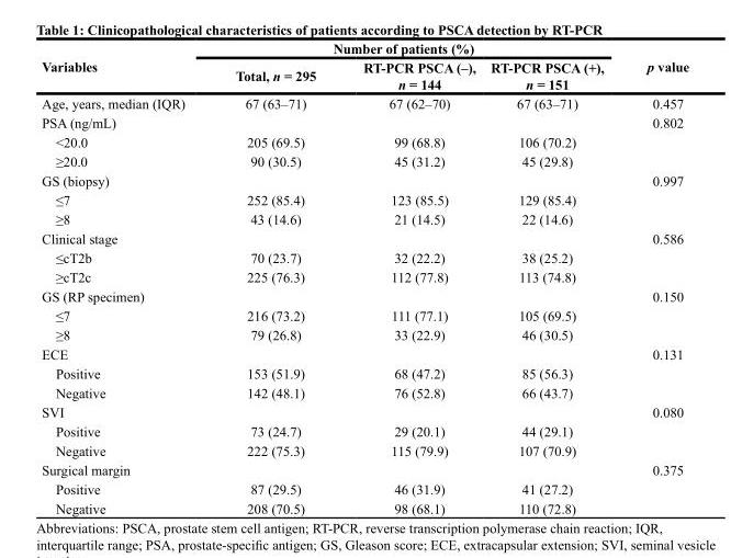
<table><thead><tr><td rowspan="2">Variables</td><td colspan="3">Number of patients (%)</td><td rowspan="2">p value</td></tr><tr><td>Total, n = 295</td><td>RT-PCR PSCA (–), n = 144</td><td>RT-PCR PSCA (+), n = 151</td></tr></thead><tbody><tr><td>Age, years, median (IQR)</td><td>67 (63–71)</td><td>67 (62–70)</td><td>67 (63–71)</td><td>0.457</td></tr><tr><td>PSA (ng/mL)</td><td></td><td></td><td></td><td>0.802</td></tr><tr><td>&lt;20.0</td><td>205 (69.5)</td><td>99 (68.8)</td><td>106 (70.2)</td><td></td></tr><tr><td>≥20.0</td><td>90 (30.5)</td><td>45 (31.2)</td><td>45 (29.8)</td><td></td></tr><tr><td>GS (biopsy)</td><td></td><td></td><td></td><td>0.997</td></tr><tr><td>≤7</td><td>252 (85.4)</td><td>123 (85.5)</td><td>129 (85.4)</td><td></td></tr><tr><td>≥8</td><td>43 (14.6)</td><td>21 (14.5)</td><td>22 (14.6)</td><td></td></tr><tr><td>Clinical stage</td><td></td><td></td><td></td><td>0.586</td></tr><tr><td>≤cT2b</td><td>70 (23.7)</td><td>32 (22.2)</td><td>38 (25.2)</td><td></td></tr><tr><td>≥cT2c</td><td>225 (76.3)</td><td>112 (77.8)</td><td>113 (74.8)</td><td></td></tr><tr><td>GS (RP specimen)</td><td></td><td></td><td></td><td>0.150</td></tr><tr><td>≤7</td><td>216 (73.2)</td><td>111 (77.1)</td><td>105 (69.5)</td><td></td></tr><tr><td>≥8</td><td>79 (26.8)</td><td>33 (22.9)</td><td>46 (30.5)</td><td></td></tr><tr><td>ECE</td><td></td><td></td><td></td><td>0.131</td></tr><tr><td>Positive</td><td>153 (51.9)</td><td>68 (47.2)</td><td>85 (56.3)</td><td></td></tr><tr><td>Negative</td><td>142 (48.1)</td><td>76 (52.8)</td><td>66 (43.7)</td><td></td></tr><tr><td>SVI</td><td></td><td></td><td></td><td>0.080</td></tr><tr><td>Positive</td><td>73 (24.7)</td><td>29 (20.1)</td><td>44 (29.1)</td><td></td></tr><tr><td>Negative</td><td>222 (75.3)</td><td>115 (79.9)</td><td>107 (70.9)</td><td></td></tr><tr><td>Surgical margin</td><td></td><td></td><td></td><td>0.375</td></tr><tr><td>Positive</td><td>87 (29.5)</td><td>46 (31.9)</td><td>41 (27.2)</td><td></td></tr><tr><td>Negative</td><td>208 (70.5)</td><td>98 (68.1)</td><td>110 (72.8)</td><td></td></tr></tbody></table>